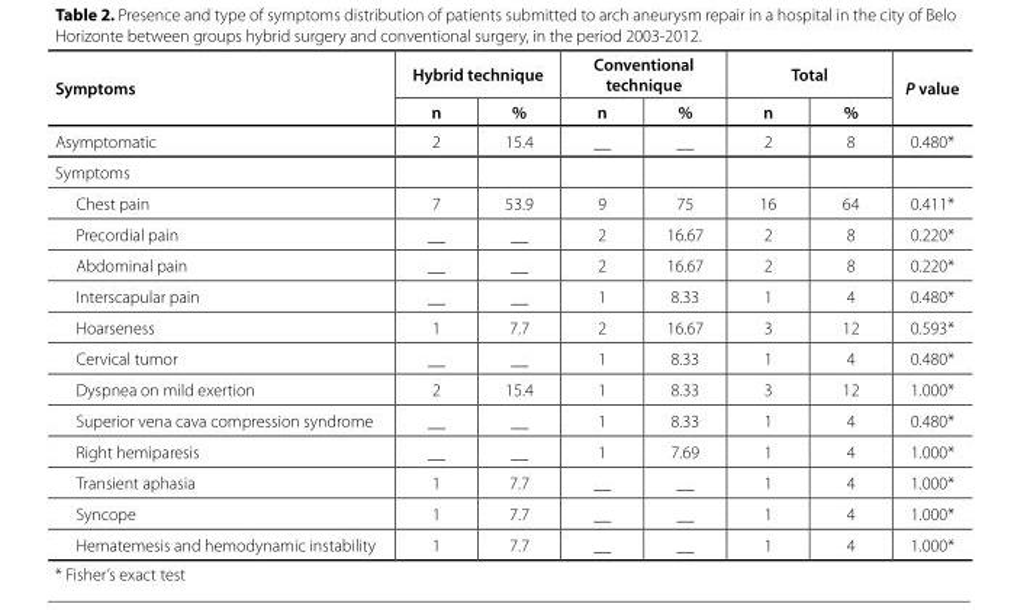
<table><thead><tr><td rowspan="2">Symptoms</td><td colspan="2">Hybrid technique</td><td colspan="2">Conventional technique</td><td colspan="2">Total</td><td rowspan="2">P value</td></tr><tr><td>n</td><td>%</td><td>n</td><td>%</td><td>n</td><td>%</td></tr></thead><tbody><tr><td>Asymptomatic</td><td>2</td><td>15.4</td><td>__</td><td>__</td><td>2</td><td>8</td><td>0.480*</td></tr><tr><td colspan="8">Symptoms</td></tr><tr><td>Chest pain</td><td>7</td><td>53.9</td><td>9</td><td>75</td><td>16</td><td>64</td><td>0.411*</td></tr><tr><td>Precordial pain</td><td>__</td><td>__</td><td>2</td><td>16.67</td><td>2</td><td>8</td><td>0.220*</td></tr><tr><td>Abdominal pain</td><td>__</td><td>__</td><td>2</td><td>16.67</td><td>2</td><td>8</td><td>0.220*</td></tr><tr><td>Interscapular pain</td><td>__</td><td>__</td><td>1</td><td>8.33</td><td>1</td><td>4</td><td>0.480*</td></tr><tr><td>Hoarseness</td><td>1</td><td>7.7</td><td>2</td><td>16.67</td><td>3</td><td>12</td><td>0.593*</td></tr><tr><td>Cervical tumor</td><td>__</td><td>__</td><td>1</td><td>8.33</td><td>1</td><td>4</td><td>0.480*</td></tr><tr><td>Dyspnea on mild exertion</td><td>2</td><td>15.4</td><td>1</td><td>8.33</td><td>3</td><td>12</td><td>1.000*</td></tr><tr><td>Superior vena cava compression syndrome</td><td>__</td><td>__</td><td>1</td><td>8.33</td><td>1</td><td>4</td><td>0.480*</td></tr><tr><td>Right hemiparesis</td><td>__</td><td>__</td><td>1</td><td>7.69</td><td>1</td><td>4</td><td>1.000*</td></tr><tr><td>Transient aphasia</td><td>1</td><td>7.7</td><td>__</td><td>__</td><td>1</td><td>4</td><td>1.000*</td></tr><tr><td>Syncope</td><td>1</td><td>7.7</td><td>__</td><td>__</td><td>1</td><td>4</td><td>1.000*</td></tr><tr><td>Hematemesis and hemodynamic instability</td><td>1</td><td>7.7</td><td>__</td><td>__</td><td>1</td><td>4</td><td>1.000*</td></tr></tbody></table>